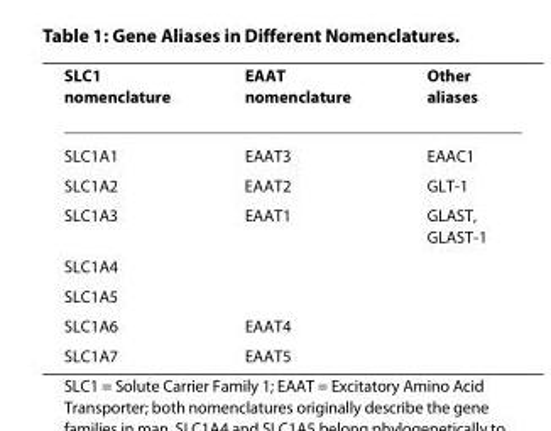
<table><thead><tr><td>SLC1 nomenclature</td><td>EAAT nomenclature</td><td>Other aliases</td></tr></thead><tbody><tr><td>SLC1A1</td><td>EAAT3</td><td>EAAC1</td></tr><tr><td>SLC1A2</td><td>EAAT2</td><td>GLT-1</td></tr><tr><td>SLC1A3</td><td>EAAT1</td><td>GLAST, GLAST-1</td></tr><tr><td colspan="3">SLC1A4</td></tr><tr><td colspan="3">SLC1A5</td></tr><tr><td>SLC1A6</td><td>EAAT4</td><td></td></tr><tr><td>SLC1A7</td><td>EAAT5</td><td></td></tr></tbody></table>